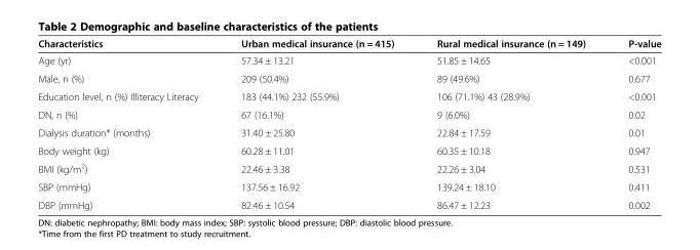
<table><thead><tr><td>Characteristics</td><td>Urban medical insurance (n = 415)</td><td>Rural medical insurance (n = 149)</td><td>P-value</td></tr></thead><tbody><tr><td>Age (yr)</td><td>57.34 ± 13.21</td><td>51.85 ± 14.65</td><td>&lt;0.001</td></tr><tr><td>Male, n (%)</td><td>209 (50.4%)</td><td>89 (49.6%)</td><td>0.677</td></tr><tr><td>Education level, n (%) Illiteracy Literacy</td><td>183 (44.1%) 232 (55.9%)</td><td>106 (71.1%) 43 (28.9%)</td><td>&lt;0.001</td></tr><tr><td>DN, n (%)</td><td>67 (16.1%)</td><td>9 (6.0%)</td><td>0.02</td></tr><tr><td>Dialysis duration* (months)</td><td>31.40 ± 25.80</td><td>22.84 ± 17.59</td><td>0.01</td></tr><tr><td>Body weight (kg)</td><td>60.28 ± 11.01</td><td>60.35 ± 10.18</td><td>0.947</td></tr><tr><td>BMI (kg/m<sup>2</sup>)</td><td>22.46 ± 3.38</td><td>22.26 ± 3.04</td><td>0.531</td></tr><tr><td>SBP (mmHg)</td><td>137.56 ± 16.92</td><td>139.24 ± 18.10</td><td>0.411</td></tr><tr><td>DBP (mmHg)</td><td>82.46 ± 10.54</td><td>86.47 ± 12.23</td><td>0.002</td></tr></tbody></table>